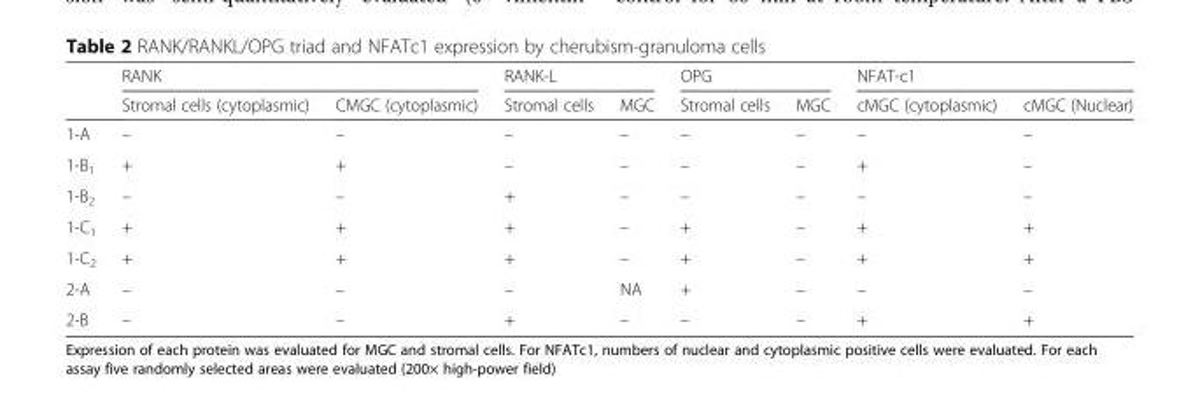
<table><thead><tr><td rowspan="2"></td><td colspan="2">RANK</td><td colspan="2">RANK-L</td><td colspan="2">OPG</td><td colspan="2">NFAT-c1</td></tr><tr><td>Stromal cells (cytoplasmic)</td><td>CMGC (cytoplasmic)</td><td>Stromal cells</td><td>MGC</td><td>Stromal cells</td><td>MGC</td><td>cMGC (cytoplasmic)</td><td>cMGC (Nuclear)</td></tr></thead><tbody><tr><td>1-A</td><td>–</td><td>–</td><td>–</td><td>–</td><td>–</td><td>–</td><td>–</td><td>–</td></tr><tr><td>1-B<sub>1</sub></td><td>+</td><td>+</td><td>–</td><td>–</td><td>–</td><td>–</td><td>+</td><td>–</td></tr><tr><td>1-B<sub>2</sub></td><td>–</td><td>–</td><td>+</td><td>–</td><td>–</td><td>–</td><td>–</td><td>–</td></tr><tr><td>1-C<sub>1</sub></td><td>+</td><td>+</td><td>+</td><td>–</td><td>+</td><td>–</td><td>+</td><td>+</td></tr><tr><td>1-C<sub>2</sub></td><td>+</td><td>+</td><td>+</td><td>–</td><td>+</td><td>–</td><td>+</td><td>+</td></tr><tr><td>2-A</td><td>–</td><td>–</td><td>–</td><td>NA</td><td>+</td><td>–</td><td>–</td><td>–</td></tr><tr><td>2-B</td><td>–</td><td>–</td><td>+</td><td>–</td><td>–</td><td>–</td><td>+</td><td>+</td></tr></tbody></table>